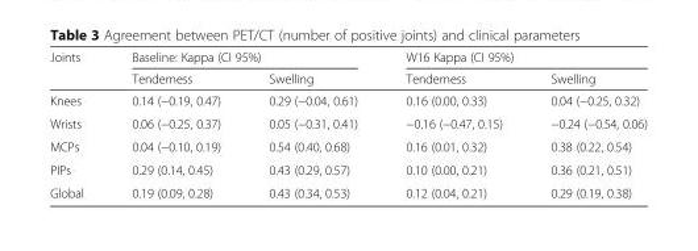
<table><thead><tr><td rowspan="2">Joints</td><td colspan="2">Baseline: Kappa (CI 95%)</td><td colspan="2">W16 Kappa (CI 95%)</td></tr><tr><td>Tenderness</td><td>Swelling</td><td>Tenderness</td><td>Swelling</td></tr></thead><tbody><tr><td>Knees</td><td>0.14 (−0.19, 0.47)</td><td>0.29 (−0.04, 0.61)</td><td>0.16 (0.00, 0.33)</td><td>0.04 (−0.25, 0.32)</td></tr><tr><td>Wrists</td><td>0.06 (−0.25, 0.37)</td><td>0.05 (−0.31, 0.41)</td><td>−0.16 (−0.47, 0.15)</td><td>−0.24 (−0.54, 0.06)</td></tr><tr><td>MCPs</td><td>0.04 (−0.10, 0.19)</td><td>0.54 (0.40, 0.68)</td><td>0.16 (0.01, 0.32)</td><td>0.38 (0.22, 0.54)</td></tr><tr><td>PIPs</td><td>0.29 (0.14, 0.45)</td><td>0.43 (0.29, 0.57)</td><td>0.10 (0.00, 0.21)</td><td>0.36 (0.21, 0.51)</td></tr><tr><td>Global</td><td>0.19 (0.09, 0.28)</td><td>0.43 (0.34, 0.53)</td><td>0.12 (0.04, 0.21)</td><td>0.29 (0.19, 0.38)</td></tr></tbody></table>